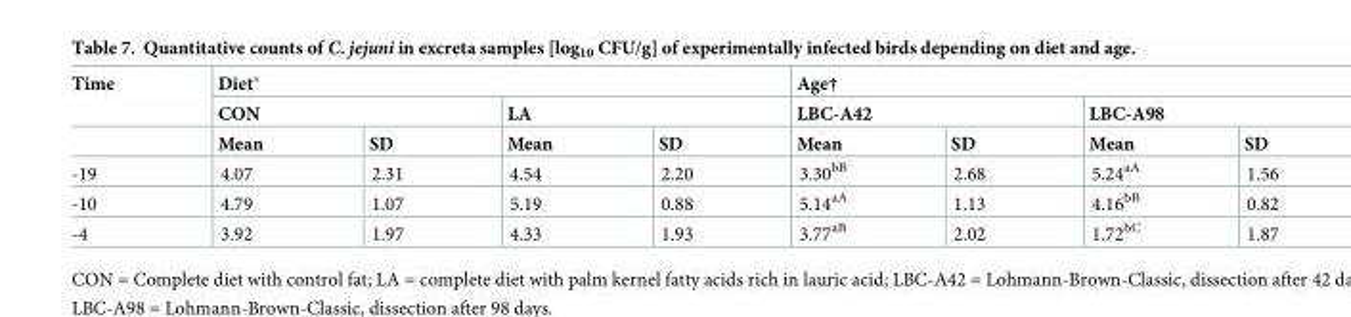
<table><thead><tr><td rowspan="3">Time</td><td colspan="4">Diet*</td><td colspan="4">Age†</td></tr><tr><td colspan="2">CON</td><td colspan="2">LA</td><td colspan="2">LBC-A42</td><td colspan="2">LBC-A98</td></tr><tr><td>Mean</td><td>SD</td><td>Mean</td><td>SD</td><td>Mean</td><td>SD</td><td>Mean</td><td>SD</td></tr></thead><tbody><tr><td>-19</td><td>4.07</td><td>2.31</td><td>4.54</td><td>2.20</td><td>3.30<sup>bB</sup></td><td>2.68</td><td>5.24<sup>aA</sup></td><td>1.56</td></tr><tr><td>-10</td><td>4.79</td><td>1.07</td><td>5.19</td><td>0.88</td><td>5.14<sup>aA</sup></td><td>1.13</td><td>4.16<sup>bB</sup></td><td>0.82</td></tr><tr><td>-4</td><td>3.92</td><td>1.97</td><td>4.33</td><td>1.93</td><td>3.77<sup>aB</sup></td><td>2.02</td><td>1.72<sup>bC</sup></td><td>1.87</td></tr></tbody></table>